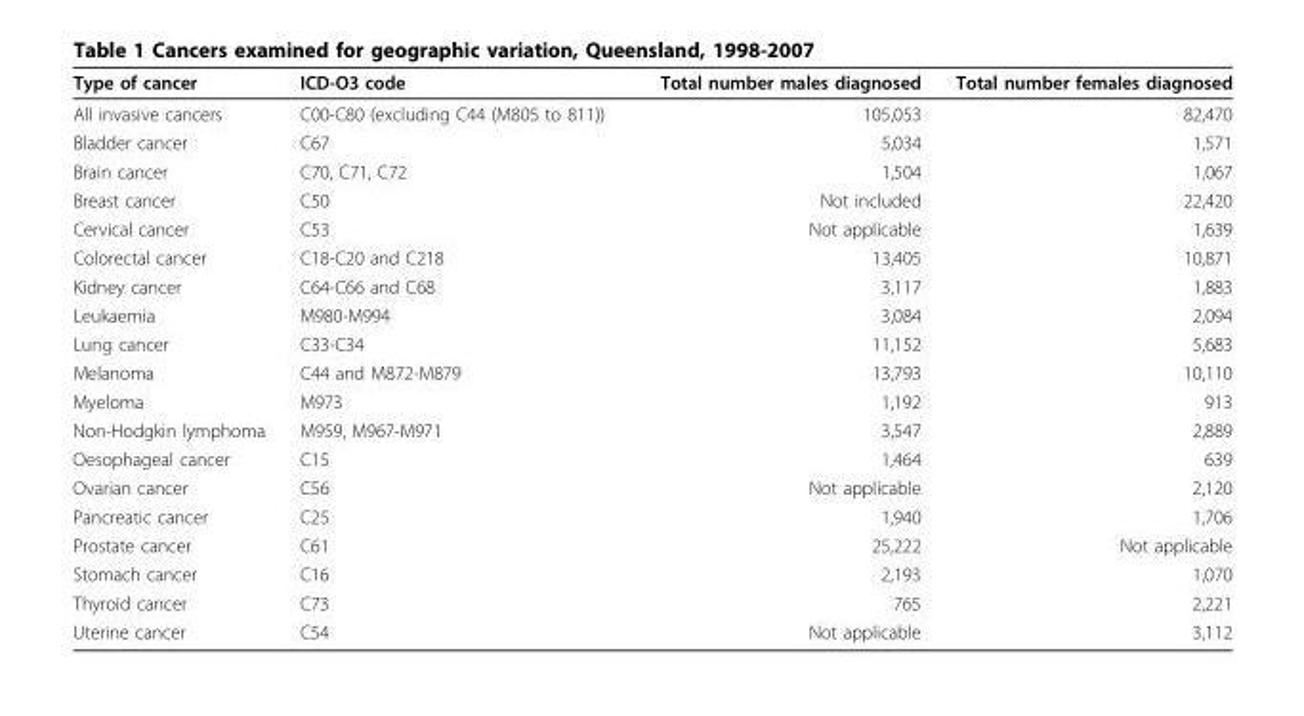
<table><thead><tr><td>Type of cancer</td><td>ICD-O3 code</td><td>Total number males diagnosed</td><td>Total number females diagnosed</td></tr></thead><tbody><tr><td>All invasive cancers</td><td>C00-C80 (excluding C44 (M805 to 811))</td><td>105,053</td><td>82,470</td></tr><tr><td>Bladder cancer</td><td>C67</td><td>5,034</td><td>1,571</td></tr><tr><td>Brain cancer</td><td>C70, C71, C72</td><td>1,504</td><td>1,067</td></tr><tr><td>Breast cancer</td><td>C50</td><td>Not included</td><td>22,420</td></tr><tr><td>Cervical cancer</td><td>C53</td><td>Not applicable</td><td>1,639</td></tr><tr><td>Colorectal cancer</td><td>C18-C20 and C218</td><td>13,405</td><td>10,871</td></tr><tr><td>Kidney cancer</td><td>C64-C66 and C68</td><td>3,117</td><td>1,883</td></tr><tr><td>Leukaemia</td><td>M980-M994</td><td>3,084</td><td>2,094</td></tr><tr><td>Lung cancer</td><td>C33-C34</td><td>11,152</td><td>5,683</td></tr><tr><td>Melanoma</td><td>C44 and M872-M879</td><td>13,793</td><td>10,110</td></tr><tr><td>Myeloma</td><td>M973</td><td>1,192</td><td>913</td></tr><tr><td>Non-Hodgkin lymphoma</td><td>M959, M967-M971</td><td>3,547</td><td>2,889</td></tr><tr><td>Oesophageal cancer</td><td>C15</td><td>1,464</td><td>639</td></tr><tr><td>Ovarian cancer</td><td>C56</td><td>Not applicable</td><td>2,120</td></tr><tr><td>Pancreatic cancer</td><td>C25</td><td>1,940</td><td>1,706</td></tr><tr><td>Prostate cancer</td><td>C61</td><td>25,222</td><td>Not applicable</td></tr><tr><td>Stomach cancer</td><td>C16</td><td>2,193</td><td>1,070</td></tr><tr><td>Thyroid cancer</td><td>C73</td><td>765</td><td>2,221</td></tr><tr><td>Uterine cancer</td><td>C54</td><td>Not applicable</td><td>3,112</td></tr></tbody></table>